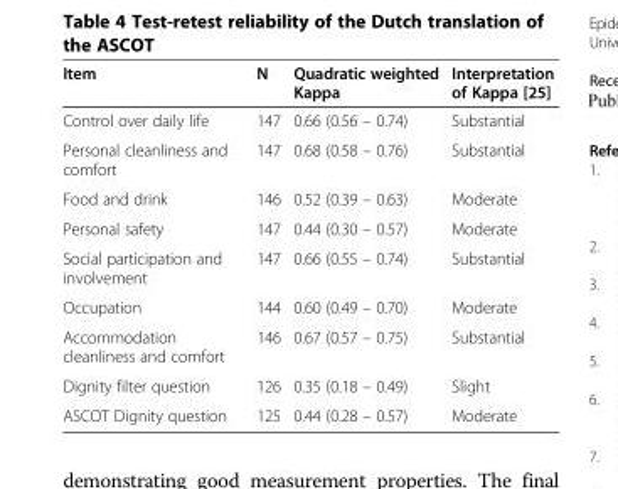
<table><thead><tr><td>Item</td><td>N</td><td>Quadratic weighted Kappa</td><td>Interpretation of Kappa [25]</td></tr></thead><tbody><tr><td>Control over daily life</td><td>147</td><td>0.66 (0.56 – 0.74)</td><td>Substantial</td></tr><tr><td>Personal cleanliness and comfort</td><td>147</td><td>0.68 (0.58 – 0.76)</td><td>Substantial</td></tr><tr><td>Food and drink</td><td>146</td><td>0.52 (0.39 – 0.63)</td><td>Moderate</td></tr><tr><td>Personal safety</td><td>147</td><td>0.44 (0.30 – 0.57)</td><td>Moderate</td></tr><tr><td>Social participation and involvement</td><td>147</td><td>0.66 (0.55 – 0.74)</td><td>Substantial</td></tr><tr><td>Occupation</td><td>144</td><td>0.60 (0.49 – 0.70)</td><td>Moderate</td></tr><tr><td>Accommodation cleanliness and comfort</td><td>146</td><td>0.67 (0.57 – 0.75)</td><td>Substantial</td></tr><tr><td>Dignity filter question</td><td>126</td><td>0.35 (0.18 – 0.49)</td><td>Slight</td></tr><tr><td>ASCOT Dignity question</td><td>125</td><td>0.44 (0.28 – 0.57)</td><td>Moderate</td></tr></tbody></table>